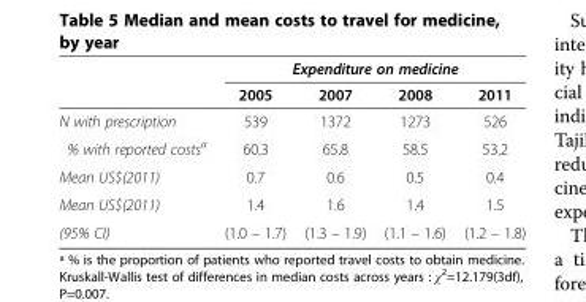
<table><thead><tr><td rowspan="2"></td><td colspan="4">Expenditure on medicine</td></tr><tr><td>2005</td><td>2007</td><td>2008</td><td>2011</td></tr></thead><tbody><tr><td>N with prescription</td><td>539</td><td>1372</td><td>1273</td><td>526</td></tr><tr><td>% with reported costs<sup>a</sup></td><td>60.3</td><td>65.8</td><td>58.5</td><td>53.2</td></tr><tr><td>Mean US$(2011)</td><td>0.7</td><td>0.6</td><td>0.5</td><td>0.4</td></tr><tr><td>Mean US$(2011)</td><td>1.4</td><td>1.6</td><td>1.4</td><td>1.5</td></tr><tr><td>(95% CI)</td><td>(1.0 – 1.7)</td><td>(1.3 – 1.9)</td><td>(1.1 – 1.6)</td><td>(1.2 – 1.8)</td></tr></tbody></table>